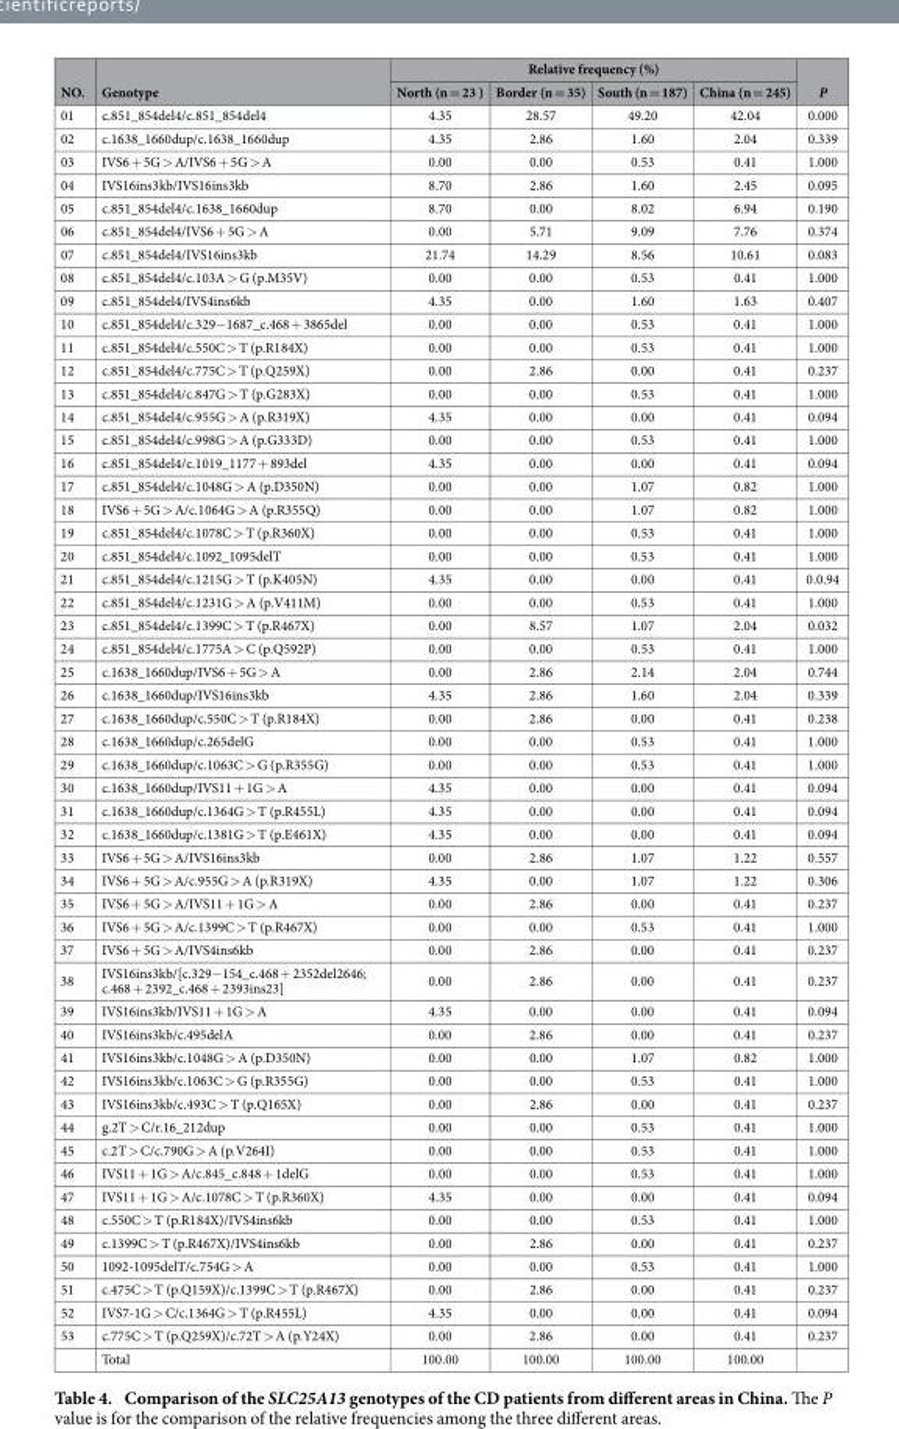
<table><thead><tr><td rowspan="2">NO.</td><td rowspan="2">Genotype</td><td colspan="4">Relative frequency (%)</td><td rowspan="2">P</td></tr><tr><td>North (n = 23 )</td><td>Border (n = 35)</td><td>South (n = 187)</td><td>China (n = 245)</td></tr></thead><tbody><tr><td>01</td><td>c.851_854del4/c.851_854del4</td><td>4.35</td><td>28.57</td><td>49.20</td><td>42.04</td><td>0.000</td></tr><tr><td>02</td><td>c.1638_1660dup/c.1638_1660dup</td><td>4.35</td><td>2.86</td><td>1.60</td><td>2.04</td><td>0.339</td></tr><tr><td>03</td><td>IVS6 + 5G &gt; A/IVS6 + 5G &gt; A</td><td>0.00</td><td>0.00</td><td>0.53</td><td>0.41</td><td>1.000</td></tr><tr><td>04</td><td>IVS16ins3kb/IVS16ins3kb</td><td>8.70</td><td>2.86</td><td>1.60</td><td>2.45</td><td>0.095</td></tr><tr><td>05</td><td>c.851_854del4/c.1638_1660dup</td><td>8.70</td><td>0.00</td><td>8.02</td><td>6.94</td><td>0.190</td></tr><tr><td>06</td><td>c.851_854del4/IVS6 + 5G &gt; A</td><td>0.00</td><td>5.71</td><td>9.09</td><td>7.76</td><td>0.374</td></tr><tr><td>07</td><td>c.851_854del4/IVS16ins3kb</td><td>21.74</td><td>14.29</td><td>8.56</td><td>10.61</td><td>0.083</td></tr><tr><td>08</td><td>c.851_854del4/c.103A &gt; G (p.M35V)</td><td>0.00</td><td>0.00</td><td>0.53</td><td>0.41</td><td>1.000</td></tr><tr><td>09</td><td>c.851_854del4/IVS4ins6kb</td><td>4.35</td><td>0.00</td><td>1.60</td><td>1.63</td><td>0.407</td></tr><tr><td>10</td><td>c.851_854del4/c.329− 1687_c.468 + 3865del</td><td>0.00</td><td>0.00</td><td>0.53</td><td>0.41</td><td>1.000</td></tr><tr><td>11</td><td>c.851_854del4/c.550C &gt; T (p.R184X)</td><td>0.00</td><td>0.00</td><td>0.53</td><td>0.41</td><td>1.000</td></tr><tr><td>12</td><td>c.851_854del4/c.775C &gt; T (p.Q259X)</td><td>0.00</td><td>2.86</td><td>0.00</td><td>0.41</td><td>0.237</td></tr><tr><td>13</td><td>c.851_854del4/c.847G &gt; T (p.G283X)</td><td>0.00</td><td>0.00</td><td>0.53</td><td>0.41</td><td>1.000</td></tr><tr><td>14</td><td>c.851_854del4/c.955G &gt; A (p.R319X)</td><td>4.35</td><td>0.00</td><td>0.00</td><td>0.41</td><td>0.094</td></tr><tr><td>15</td><td>c.851_854del4/c.998G &gt; A (p.G333D)</td><td>0.00</td><td>0.00</td><td>0.53</td><td>0.41</td><td>1.000</td></tr><tr><td>16</td><td>c.851_854del4/c.1019_1177 + 893del</td><td>4.35</td><td>0.00</td><td>0.00</td><td>0.41</td><td>0.094</td></tr><tr><td>17</td><td>c.851_854del4/c.1048G &gt; A (p.D350N)</td><td>0.00</td><td>0.00</td><td>1.07</td><td>0.82</td><td>1.000</td></tr><tr><td>18</td><td>IVS6 + 5G &gt; A/c.1064G &gt; A (p.R355Q)</td><td>0.00</td><td>0.00</td><td>1.07</td><td>0.82</td><td>1.000</td></tr><tr><td>19</td><td>c.851_854del4/c.1078C &gt; T (p.R360X)</td><td>0.00</td><td>0.00</td><td>0.53</td><td>0.41</td><td>1.000</td></tr><tr><td>20</td><td>c.851_854del4/c.1092_1095delT</td><td>0.00</td><td>0.00</td><td>0.53</td><td>0.41</td><td>1.000</td></tr><tr><td>21</td><td>c.851_854del4/c.1215G &gt; T (p.K405N)</td><td>4.35</td><td>0.00</td><td>0.00</td><td>0.41</td><td>0.0.94</td></tr><tr><td>22</td><td>c.851_854del4/c.1231G &gt; A (p.V411M)</td><td>0.00</td><td>0.00</td><td>0.53</td><td>0.41</td><td>1.000</td></tr><tr><td>23</td><td>c.851_854del4/c.1399C &gt; T (p.R467X)</td><td>0.00</td><td>8.57</td><td>1.07</td><td>2.04</td><td>0.032</td></tr><tr><td>24</td><td>c.851_854del4/c.1775A &gt; C (p.Q592P)</td><td>0.00</td><td>0.00</td><td>0.53</td><td>0.41</td><td>1.000</td></tr><tr><td>25</td><td>c.1638_1660dup/IVS6 + 5G &gt; A</td><td>0.00</td><td>2.86</td><td>2.14</td><td>2.04</td><td>0.744</td></tr><tr><td>26</td><td>c.1638_1660dup/IVS16ins3kb</td><td>4.35</td><td>2.86</td><td>1.60</td><td>2.04</td><td>0.339</td></tr><tr><td>27</td><td>c.1638_1660dup/c.550C &gt; T (p.R184X)</td><td>0.00</td><td>2.86</td><td>0.00</td><td>0.41</td><td>0.238</td></tr><tr><td>28</td><td>c.1638_1660dup/c.265delG</td><td>0.00</td><td>0.00</td><td>0.53</td><td>0.41</td><td>1.000</td></tr><tr><td>29</td><td>c.1638_1660dup/c.1063C &gt; G (p.R355G)</td><td>0.00</td><td>0.00</td><td>0.53</td><td>0.41</td><td>1.000</td></tr><tr><td>30</td><td>c.1638_1660dup/IVS11 + 1G &gt; A</td><td>4.35</td><td>0.00</td><td>0.00</td><td>0.41</td><td>0.094</td></tr><tr><td>31</td><td>c.1638_1660dup/c.1364G &gt; T (p.R455L)</td><td>4.35</td><td>0.00</td><td>0.00</td><td>0.41</td><td>0.094</td></tr><tr><td>32</td><td>c.1638_1660dup/c.1381G &gt; T (p.E461X)</td><td>4.35</td><td>0.00</td><td>0.00</td><td>0.41</td><td>0.094</td></tr><tr><td>33</td><td>IVS6 + 5G &gt; A/IVS16ins3kb</td><td>0.00</td><td>2.86</td><td>1.07</td><td>1.22</td><td>0.557</td></tr><tr><td>34</td><td>IVS6 + 5G &gt; A/c.955G &gt; A (p.R319X)</td><td>4.35</td><td>0.00</td><td>1.07</td><td>1.22</td><td>0.306</td></tr><tr><td>35</td><td>IVS6 + 5G &gt; A/IVS11 + 1G &gt; A</td><td>0.00</td><td>2.86</td><td>0.00</td><td>0.41</td><td>0.237</td></tr><tr><td>36</td><td>IVS6 + 5G &gt; A/c.1399C &gt; T (p.R467X)</td><td>0.00</td><td>0.00</td><td>0.53</td><td>0.41</td><td>1.000</td></tr><tr><td>37</td><td>IVS6 + 5G &gt; A/IVS4ins6kb</td><td>0.00</td><td>2.86</td><td>0.00</td><td>0.41</td><td>0.237</td></tr><tr><td>38</td><td>IVS16ins3kb/[c.329− 154_c.468 + 2352del2646; c.468 + 2392_c.468 + 2393ins23]</td><td>0.00</td><td>2.86</td><td>0.00</td><td>0.41</td><td>0.237</td></tr><tr><td>39</td><td>IVS16ins3kb/IVS11 + 1G &gt; A</td><td>4.35</td><td>0.00</td><td>0.00</td><td>0.41</td><td>0.094</td></tr><tr><td>40</td><td>IVS16ins3kb/c.495delA</td><td>0.00</td><td>2.86</td><td>0.00</td><td>0.41</td><td>0.237</td></tr><tr><td>41</td><td>IVS16ins3kb/c.1048G &gt; A (p.D350N)</td><td>0.00</td><td>0.00</td><td>1.07</td><td>0.82</td><td>1.000</td></tr><tr><td>42</td><td>IVS16ins3kb/c.1063C &gt; G (p.R355G)</td><td>0.00</td><td>0.00</td><td>0.53</td><td>0.41</td><td>1.000</td></tr><tr><td>43</td><td>IVS16ins3kb/c.493C &gt; T (p.Q165X)</td><td>0.00</td><td>2.86</td><td>0.00</td><td>0.41</td><td>0.237</td></tr><tr><td>44</td><td>g.2T &gt; C/r.16_212dup</td><td>0.00</td><td>0.00</td><td>0.53</td><td>0.41</td><td>1.000</td></tr><tr><td>45</td><td>c.2T &gt; C/c.790G &gt; A (p.V264I)</td><td>0.00</td><td>0.00</td><td>0.53</td><td>0.41</td><td>1.000</td></tr><tr><td>46</td><td>IVS11 + 1G &gt; A/c.845_c.848 + 1delG</td><td>0.00</td><td>0.00</td><td>0.53</td><td>0.41</td><td>1.000</td></tr><tr><td>47</td><td>IVS11 + 1G &gt; A/c.1078C &gt; T (p.R360X)</td><td>4.35</td><td>0.00</td><td>0.00</td><td>0.41</td><td>0.094</td></tr><tr><td>48</td><td>c.550C &gt; T (p.R184X)/IVS4ins6kb</td><td>0.00</td><td>0.00</td><td>0.53</td><td>0.41</td><td>1.000</td></tr><tr><td>49</td><td>c.1399C &gt; T (p.R467X)/IVS4ins6kb</td><td>0.00</td><td>2.86</td><td>0.00</td><td>0.41</td><td>0.237</td></tr><tr><td>50</td><td>1092-1095delT/c.754G &gt; A</td><td>0.00</td><td>0.00</td><td>0.53</td><td>0.41</td><td>1.000</td></tr><tr><td>51</td><td>c.475C &gt; T (p.Q159X)/c.1399C &gt; T (p.R467X)</td><td>0.00</td><td>2.86</td><td>0.00</td><td>0.41</td><td>0.237</td></tr><tr><td>52</td><td>IVS7-1G &gt; C/c.1364G &gt; T (p.R455L)</td><td>4.35</td><td>0.00</td><td>0.00</td><td>0.41</td><td>0.094</td></tr><tr><td rowspan="2">53</td><td>c.775C &gt; T (p.Q259X)/c.72T &gt; A (p.Y24X)</td><td>0.00</td><td>2.86</td><td>0.00</td><td>0.41</td><td>0.237</td></tr><tr><td>Total</td><td>100.00</td><td>100.00</td><td>100.00</td><td>100.00</td><td></td></tr></tbody></table>